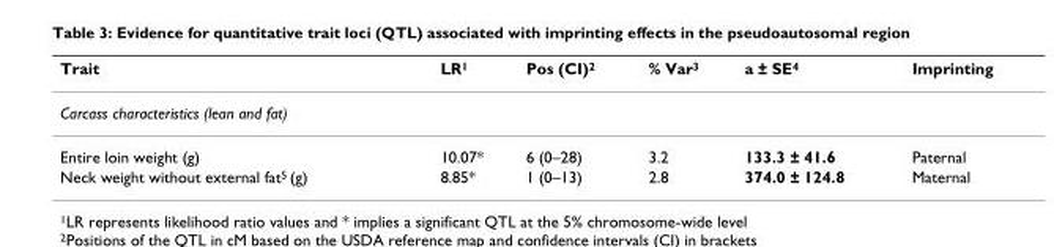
<table><thead><tr><td>Trait</td><td>LR<sup>1</sup></td><td>Pos (CI)<sup>2</sup></td><td>% Var<sup>3</sup></td><td>a ± SE<sup>4</sup></td><td>Imprinting</td></tr></thead><tbody><tr><td colspan="6">Carcass characteristics (lean and fat)</td></tr><tr><td>Entire loin weight (g)</td><td>10.07*</td><td>6 (0–28)</td><td>3.2</td><td>133.3 ± 41.6</td><td>Paternal</td></tr><tr><td>Neck weight without external fat<sup>5</sup> (g)</td><td>8.85*</td><td>1 (0–13)</td><td>2.8</td><td>374.0 ± 124.8</td><td>Maternal</td></tr></tbody></table>